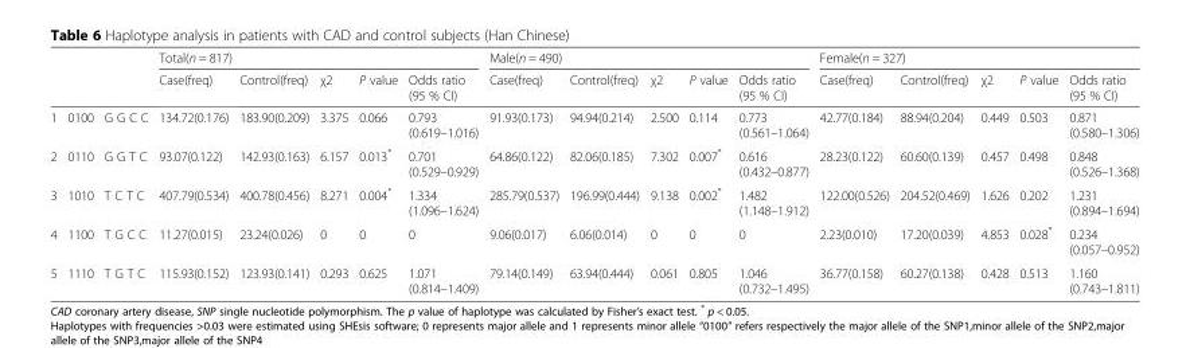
<table><thead><tr><td rowspan="2"></td><td rowspan="2"></td><td rowspan="2"></td><td colspan="5">Total(n = 817)</td><td colspan="5">Male(n = 490)</td><td colspan="5">Female(n = 327)</td></tr><tr><td>Case(freq)</td><td>Control(freq)</td><td>χ2</td><td>P value</td><td>Odds ratio (95 % CI)</td><td>Case(freq)</td><td>Control(freq)</td><td>χ2</td><td>P value</td><td>Odds ratio (95 % CI)</td><td>Case(freq)</td><td>Control(freq)</td><td>χ2</td><td>P value</td><td>Odds ratio (95 % CI)</td></tr></thead><tbody><tr><td>1</td><td>0100</td><td>G G C C</td><td>134.72(0.176)</td><td>183.90(0.209)</td><td>3.375</td><td>0.066</td><td>0.793 (0.619–1.016)</td><td>91.93(0.173)</td><td>94.94(0.214)</td><td>2.500</td><td>0.114</td><td>0.773 (0.561–1.064)</td><td>42.77(0.184)</td><td>88.94(0.204)</td><td>0.449</td><td>0.503</td><td>0.871 (0.580–1.306)</td></tr><tr><td>2</td><td>0110</td><td>G G T C</td><td>93.07(0.122)</td><td>142.93(0.163)</td><td>6.157</td><td>0.013*</td><td>0.701 (0.529–0.929)</td><td>64.86(0.122)</td><td>82.06(0.185)</td><td>7.302</td><td>0.007*</td><td>0.616 (0.432–0.877)</td><td>28.23(0.122)</td><td>60.60(0.139)</td><td>0.457</td><td>0.498</td><td>0.848 (0.526–1.368)</td></tr><tr><td>3</td><td>1010</td><td>T C T C</td><td>407.79(0.534)</td><td>400.78(0.456)</td><td>8.271</td><td>0.004*</td><td>1.334 (1.096–1.624)</td><td>285.79(0.537)</td><td>196.99(0.444)</td><td>9.138</td><td>0.002*</td><td>1.482 (1.148–1.912)</td><td>122.00(0.526)</td><td>204.52(0.469)</td><td>1.626</td><td>0.202</td><td>1.231 (0.894–1.694)</td></tr><tr><td>4</td><td>1100</td><td>T G C C</td><td>11.27(0.015)</td><td>23.24(0.026)</td><td>0</td><td>0</td><td>0</td><td>9.06(0.017)</td><td>6.06(0.014)</td><td>0</td><td>0</td><td>0</td><td>2.23(0.010)</td><td>17.20(0.039)</td><td>4.853</td><td>0.028*</td><td>0.234 (0.057–0.952)</td></tr><tr><td>5</td><td>1110</td><td>T G T C</td><td>115.93(0.152)</td><td>123.93(0.141)</td><td>0.293</td><td>0.625</td><td>1.071 (0.814–1.409)</td><td>79.14(0.149)</td><td>63.94(0.444)</td><td>0.061</td><td>0.805</td><td>1.046 (0.732–1.495)</td><td>36.77(0.158)</td><td>60.27(0.138)</td><td>0.428</td><td>0.513</td><td>1.160 (0.743–1.811)</td></tr></tbody></table>